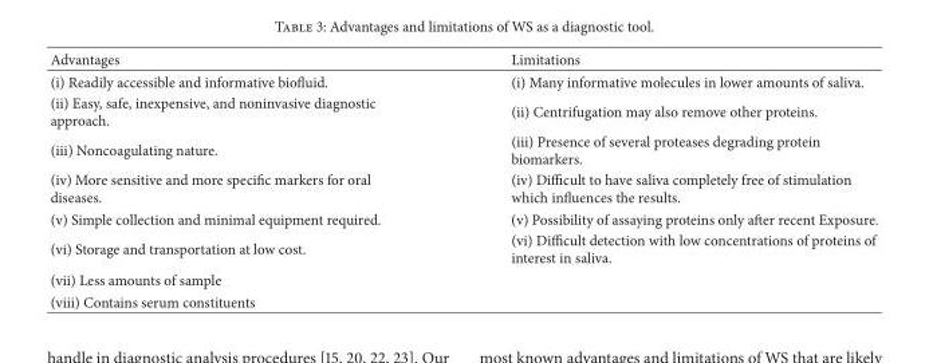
<table><thead><tr><td>Advantages</td><td>Limitations</td></tr></thead><tbody><tr><td>(i) Readily accessible and informative biofluid.</td><td>(i) Many informative molecules in lower amounts of saliva.</td></tr><tr><td>(ii) Easy, safe, inexpensive, and noninvasive diagnostic approach.</td><td>(ii) Centrifugation may also remove other proteins.</td></tr><tr><td>(iii) Noncoagulating nature.</td><td>(iii) Presence of several proteases degrading protein biomarkers.</td></tr><tr><td>(iv) More sensitive and more specific markers for oral diseases.</td><td>(iv) Difficult to have saliva completely free of stimulation which influences the results.</td></tr><tr><td>(v) Simple collection and minimal equipment required.</td><td>(v) Possibility of assaying proteins only after recent Exposure.</td></tr><tr><td>(vi) Storage and transportation at low cost.</td><td>(vi) Difficult detection with low concentrations of proteins of interest in saliva.</td></tr><tr><td colspan="2">(vii) Less amounts of sample</td></tr><tr><td>(viii) Contains serum constituents</td><td></td></tr></tbody></table>